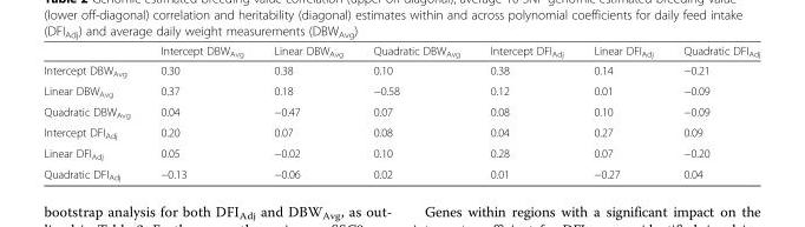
<table><thead><tr><td></td><td>Intercept DBW<sub>Avg</sub></td><td>Linear DBW<sub>Avg</sub></td><td>Quadratic DBW<sub>Avg</sub></td><td>Intercept DFI<sub>Adj</sub></td><td>Linear DFI<sub>Adj</sub></td><td>Quadratic DFI<sub>Adj</sub></td></tr></thead><tbody><tr><td>Intercept DBW<sub>Avg</sub></td><td>0.30</td><td>0.38</td><td>0.10</td><td>0.38</td><td>0.14</td><td>−0.21</td></tr><tr><td>Linear DBW<sub>Avg</sub></td><td>0.37</td><td>0.18</td><td>−0.58</td><td>0.12</td><td>0.01</td><td>−0.09</td></tr><tr><td>Quadratic DBW<sub>Avg</sub></td><td>0.04</td><td>−0.47</td><td>0.07</td><td>0.08</td><td>0.10</td><td>−0.09</td></tr><tr><td>Intercept DFI<sub>Adj</sub></td><td>0.20</td><td>0.07</td><td>0.08</td><td>0.04</td><td>0.27</td><td>0.09</td></tr><tr><td>Linear DFI<sub>Adj</sub></td><td>0.05</td><td>−0.02</td><td>0.10</td><td>0.28</td><td>0.07</td><td>−0.20</td></tr><tr><td>Quadratic DFI<sub>Adj</sub></td><td>−0.13</td><td>−0.06</td><td>0.02</td><td>0.01</td><td>−0.27</td><td>0.04</td></tr></tbody></table>